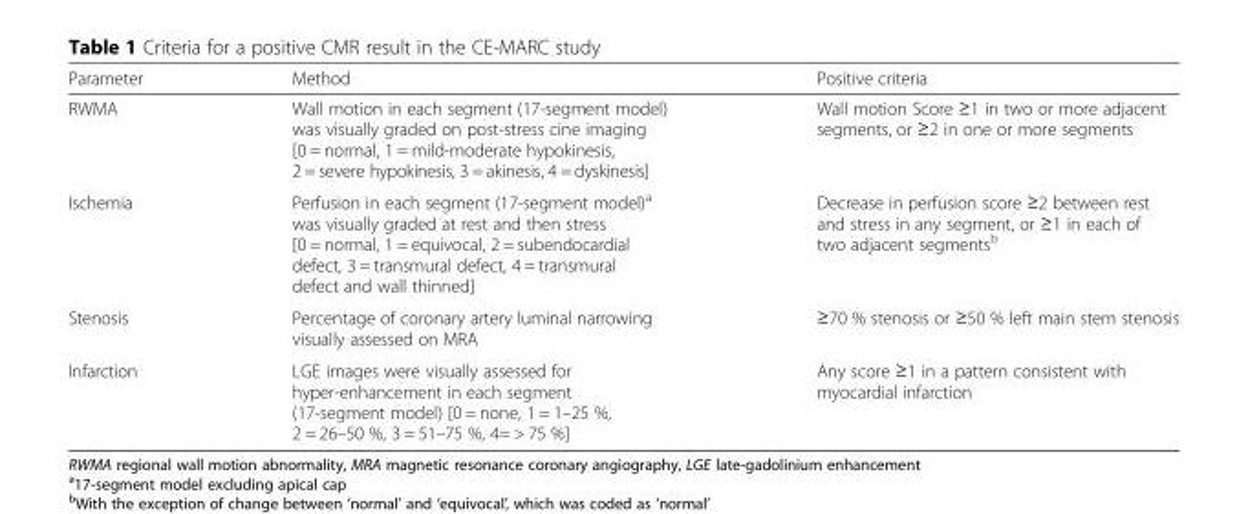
<table><thead><tr><td>Parameter</td><td>Method</td><td>Positive criteria</td></tr></thead><tbody><tr><td>RWMA</td><td>Wall motion in each segment (17-segment model) was visually graded on post-stress cine imaging [0 = normal, 1 = mild-moderate hypokinesis, 2 = severe hypokinesis, 3 = akinesis, 4 = dyskinesis]</td><td>Wall motion Score ≥1 in two or more adjacent segments, or ≥2 in one or more segments</td></tr><tr><td>Ischemia</td><td>Perfusion in each segment (17-segment model)<sup>a</sup> was visually graded at rest and then stress [0 = normal, 1 = equivocal, 2 = subendocardial defect, 3 = transmural defect, 4 = transmural defect and wall thinned]</td><td>Decrease in perfusion score ≥2 between rest and stress in any segment, or ≥1 in each of two adjacent segments<sup>b</sup></td></tr><tr><td>Stenosis</td><td>Percentage of coronary artery luminal narrowing visually assessed on MRA</td><td>≥70 % stenosis or ≥50 % left main stem stenosis</td></tr><tr><td>Infarction</td><td>LGE images were visually assessed for hyper-enhancement in each segment (17-segment model) [0 = none, 1 = 1–25 %, 2 = 26–50 %, 3 = 51–75 %, 4= &gt; 75 %]</td><td>Any score ≥1 in a pattern consistent with myocardial infarction</td></tr></tbody></table>